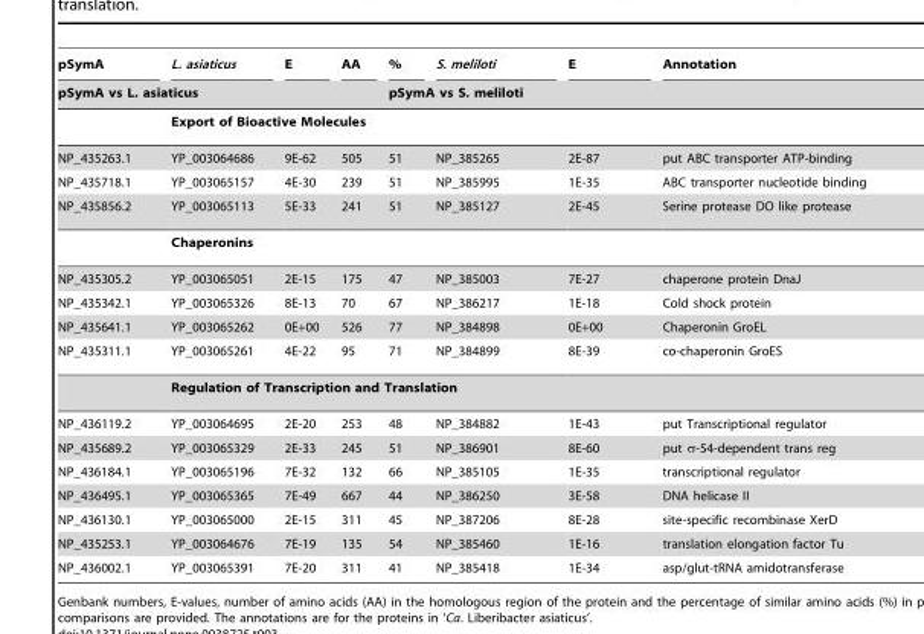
<table><thead><tr><td>pSymA</td><td>L. asiaticus</td><td>E</td><td>AA</td><td>%</td><td>S. meliloti</td><td>E</td><td>Annotation</td></tr><tr><td colspan="4">pSymA vs L. asiaticus</td><td colspan="4">pSymA vs S. meliloti</td></tr></thead><tbody><tr><td></td><td colspan="7">Export of Bioactive Molecules</td></tr><tr><td>NP_435263.1</td><td>YP_003064686</td><td>9E-62</td><td>505</td><td>51</td><td>NP_385265</td><td>2E-87</td><td>put ABC transporter ATP-binding</td></tr><tr><td>NP_435718.1</td><td>YP_003065157</td><td>4E-30</td><td>239</td><td>51</td><td>NP_385995</td><td>1E-35</td><td>ABC transporter nucleotide binding</td></tr><tr><td rowspan="2">NP_435856.2</td><td>YP_003065113</td><td>5E-33</td><td>241</td><td>51</td><td>NP_385127</td><td>2E-45</td><td>Serine protease DO like protease</td></tr><tr><td colspan="7">Chaperonins</td></tr><tr><td>NP_435305.2</td><td>YP_003065051</td><td>2E-15</td><td>175</td><td>47</td><td>NP_385003</td><td>7E-27</td><td>chaperone protein DnaJ</td></tr><tr><td>NP_435342.1</td><td>YP_003065326</td><td>8E-13</td><td>70</td><td>67</td><td>NP_386217</td><td>1E-18</td><td>Cold shock protein</td></tr><tr><td>NP_435641.1</td><td>YP_003065262</td><td>0E+00</td><td>526</td><td>77</td><td>NP_384898</td><td>0E+00</td><td>Chaperonin GroEL</td></tr><tr><td rowspan="2">NP_435311.1</td><td>YP_003065261</td><td>4E-22</td><td>95</td><td>71</td><td>NP_384899</td><td>8E-39</td><td>co-chaperonin GroES</td></tr><tr><td colspan="7">Regulation of Transcription and Translation</td></tr><tr><td>NP_436119.2</td><td>YP_003064695</td><td>2E-20</td><td>253</td><td>48</td><td>NP_384882</td><td>1E-43</td><td>put Transcriptional regulator</td></tr><tr><td>NP_435689.2</td><td>YP_003065329</td><td>2E-33</td><td>245</td><td>51</td><td>NP_386901</td><td>8E-60</td><td>put σ-54-dependent trans reg</td></tr><tr><td>NP_436184.1</td><td>YP_003065196</td><td>7E-32</td><td>132</td><td>66</td><td>NP_385105</td><td>1E-35</td><td>transcriptional regulator</td></tr><tr><td>NP_436495.1</td><td>YP_003065365</td><td>7E-49</td><td>667</td><td>44</td><td>NP_386250</td><td>3E-58</td><td>DNA helicase II</td></tr><tr><td>NP_436130.1</td><td>YP_003065000</td><td>2E-15</td><td>311</td><td>45</td><td>NP_387206</td><td>8E-28</td><td>site-specific recombinase XerD</td></tr><tr><td>NP_435253.1</td><td>YP_003064676</td><td>7E-19</td><td>135</td><td>54</td><td>NP_385460</td><td>1E-16</td><td>translation elongation factor Tu</td></tr><tr><td>NP_436002.1</td><td>YP_003065391</td><td>7E-20</td><td>311</td><td>41</td><td>NP_385418</td><td>1E-34</td><td>asp/glut-tRNA amidotransferase</td></tr></tbody></table>